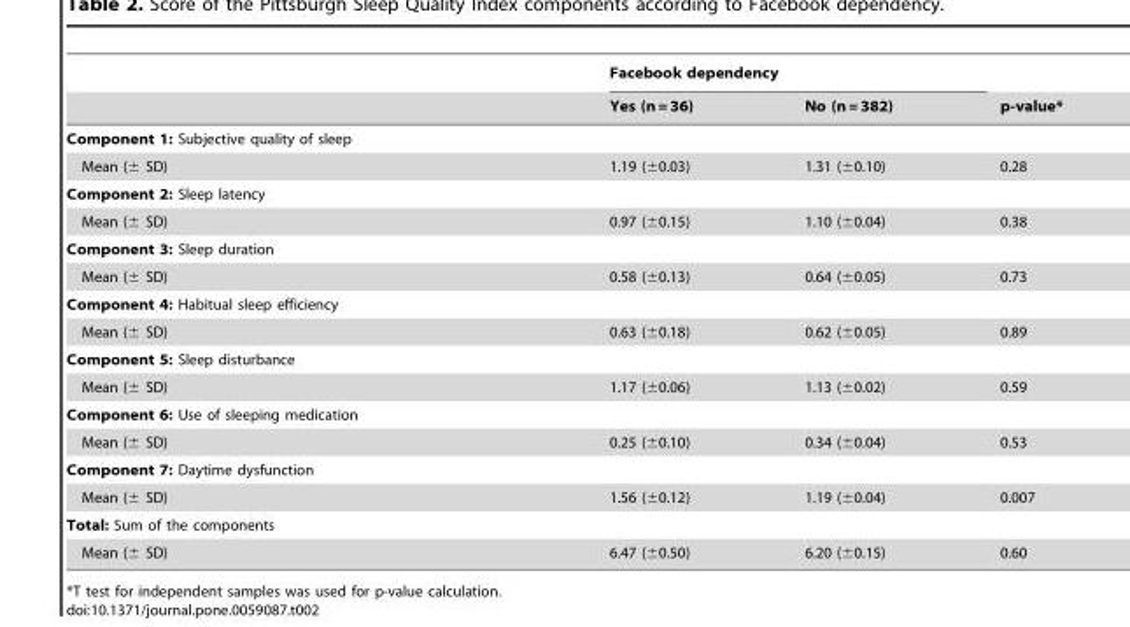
<table><thead><tr><td rowspan="2"></td><td colspan="2">Facebook dependency</td><td rowspan="2">p-value*</td></tr><tr><td>Yes (n = 36)</td><td>No (n = 382)</td></tr></thead><tbody><tr><td colspan="4">Component 1: Subjective quality of sleep</td></tr><tr><td>Mean (± SD)</td><td>1.19 (±0.03)</td><td>1.31 (±0.10)</td><td>0.28</td></tr><tr><td colspan="4">Component 2: Sleep latency</td></tr><tr><td>Mean (± SD)</td><td>0.97 (±0.15)</td><td>1.10 (±0.04)</td><td>0.38</td></tr><tr><td colspan="4">Component 3: Sleep duration</td></tr><tr><td>Mean (± SD)</td><td>0.58 (±0.13)</td><td>0.64 (±0.05)</td><td>0.73</td></tr><tr><td colspan="4">Component 4: Habitual sleep efficiency</td></tr><tr><td>Mean (± SD)</td><td>0.63 (±0.18)</td><td>0.62 (±0.05)</td><td>0.89</td></tr><tr><td colspan="4">Component 5: Sleep disturbance</td></tr><tr><td>Mean (± SD)</td><td>1.17 (±0.06)</td><td>1.13 (±0.02)</td><td>0.59</td></tr><tr><td colspan="4">Component 6: Use of sleeping medication</td></tr><tr><td>Mean (± SD)</td><td>0.25 (±0.10)</td><td>0.34 (±0.04)</td><td>0.53</td></tr><tr><td colspan="4">Component 7: Daytime dysfunction</td></tr><tr><td>Mean (± SD)</td><td>1.56 (±0.12)</td><td>1.19 (±0.04)</td><td>0.007</td></tr><tr><td colspan="4">Total: Sum of the components</td></tr><tr><td>Mean (± SD)</td><td>6.47 (±0.50)</td><td>6.20 (±0.15)</td><td>0.60</td></tr></tbody></table>